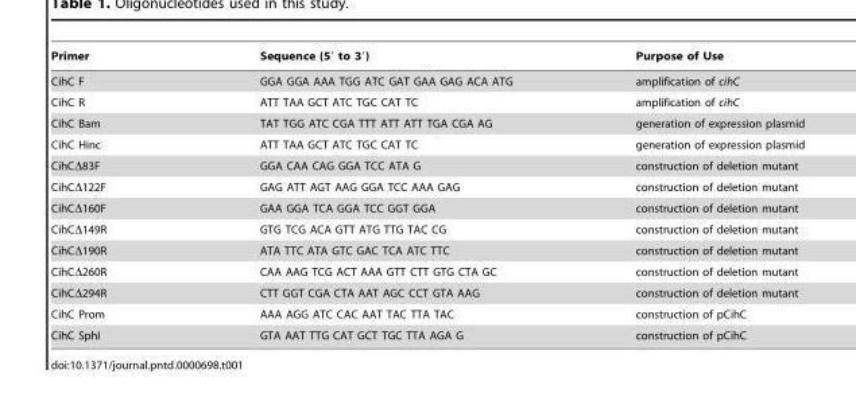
<table><thead><tr><td>Primer</td><td>Sequence (5′ to 3′)</td><td>Purpose of Use</td></tr></thead><tbody><tr><td>CihC F</td><td>GGA GGA AAA TGG ATC GAT GAA GAG ACA ATG</td><td>amplification of cihC</td></tr><tr><td>CihC R</td><td>ATT TAA GCT ATC TGC CAT TC</td><td>amplification of cihC</td></tr><tr><td>CihC Bam</td><td>TAT TGG ATC CGA TTT ATT ATT TGA CGA AG</td><td>generation of expression plasmid</td></tr><tr><td>CihC Hinc</td><td>ATT TAA GCT ATC TGC CAT TC</td><td>generation of expression plasmid</td></tr><tr><td>CihCΔ83F</td><td>GGA CAA CAG GGA TCC ATA G</td><td>construction of deletion mutant</td></tr><tr><td>CihCΔ122F</td><td>GAG ATT AGT AAG GGA TCC AAA GAG</td><td>construction of deletion mutant</td></tr><tr><td>CihCΔ160F</td><td>GAA GGA TCA GGA TCC GGT GGA</td><td>construction of deletion mutant</td></tr><tr><td>CihCΔ149R</td><td>GTG TCG ACA GTT ATG TTG TAC CG</td><td>construction of deletion mutant</td></tr><tr><td>CihCΔ190R</td><td>ATA TTC ATA GTC GAC TCA ATC TTC</td><td>construction of deletion mutant</td></tr><tr><td>CihCΔ260R</td><td>CAA AAG TCG ACT AAA GTT CTT GTG CTA GC</td><td>construction of deletion mutant</td></tr><tr><td>CihCΔ294R</td><td>CTT GGT CGA CTA AAT AGC CCT GTA AAG</td><td>construction of deletion mutant</td></tr><tr><td>CihC Prom</td><td>AAA AGG ATC CAC AAT TAC TTA TAC</td><td>construction of pCihC</td></tr><tr><td>CihC SphI</td><td>GTA AAT TTG CAT GCT TGC TTA AGA G</td><td>construction of pCihC</td></tr></tbody></table>